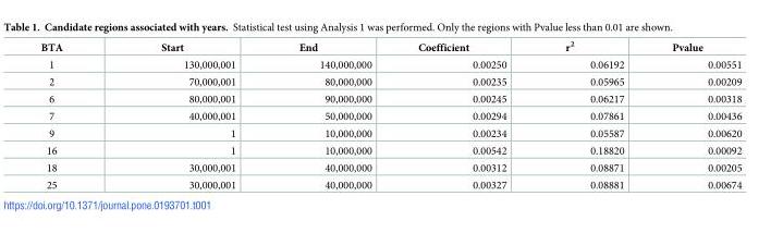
<table><thead><tr><td>BTA</td><td>Start</td><td>End</td><td>Coefficient</td><td>r<sup>2</sup></td><td>Pvalue</td></tr></thead><tbody><tr><td>1</td><td>130,000,001</td><td>140,000,000</td><td>0.00250</td><td>0.06192</td><td>0.00551</td></tr><tr><td>2</td><td>70,000,001</td><td>80,000,000</td><td>0.00235</td><td>0.05965</td><td>0.00209</td></tr><tr><td>6</td><td>80,000,001</td><td>90,000,000</td><td>0.00245</td><td>0.06217</td><td>0.00318</td></tr><tr><td>7</td><td>40,000,001</td><td>50,000,000</td><td>0.00294</td><td>0.07861</td><td>0.00436</td></tr><tr><td>9</td><td>1</td><td>10,000,000</td><td>0.00234</td><td>0.05587</td><td>0.00620</td></tr><tr><td>16</td><td>1</td><td>10,000,000</td><td>0.00542</td><td>0.18820</td><td>0.00092</td></tr><tr><td>18</td><td>30,000,001</td><td>40,000,000</td><td>0.00312</td><td>0.08871</td><td>0.00205</td></tr><tr><td>25</td><td>30,000,001</td><td>40,000,000</td><td>0.00327</td><td>0.08881</td><td>0.00674</td></tr></tbody></table>